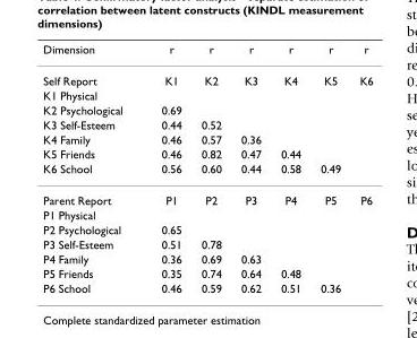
<table><thead><tr><td>Dimension</td><td>r</td><td>r</td><td>r</td><td>r</td><td>r</td><td>r</td></tr></thead><tbody><tr><td>Self Report</td><td>K1</td><td>K2</td><td>K3</td><td>K4</td><td>K5</td><td>K6</td></tr><tr><td colspan="7">K1 Physical</td></tr><tr><td>K2 Psychological</td><td>0.69</td><td></td><td></td><td></td><td></td><td></td></tr><tr><td>K3 Self-Esteem</td><td>0.44</td><td>0.52</td><td></td><td></td><td></td><td></td></tr><tr><td>K4 Family</td><td>0.46</td><td>0.57</td><td>0.36</td><td></td><td></td><td></td></tr><tr><td>K5 Friends</td><td>0.46</td><td>0.82</td><td>0.47</td><td>0.44</td><td></td><td></td></tr><tr><td>K6 School</td><td>0.56</td><td>0.60</td><td>0.44</td><td>0.58</td><td>0.49</td><td></td></tr><tr><td>Parent Report</td><td>P1</td><td>P2</td><td>P3</td><td>P4</td><td>P5</td><td>P6</td></tr><tr><td colspan="7">P1 Physical</td></tr><tr><td>P2 Psychological</td><td>0.65</td><td></td><td></td><td></td><td></td><td></td></tr><tr><td>P3 Self-Esteem</td><td>0.51</td><td>0.78</td><td></td><td></td><td></td><td></td></tr><tr><td>P4 Family</td><td>0.36</td><td>0.69</td><td>0.63</td><td></td><td></td><td></td></tr><tr><td>P5 Friends</td><td>0.35</td><td>0.74</td><td>0.64</td><td>0.48</td><td></td><td></td></tr><tr><td>P6 School</td><td>0.46</td><td>0.59</td><td>0.62</td><td>0.51</td><td>0.36</td><td></td></tr></tbody></table>